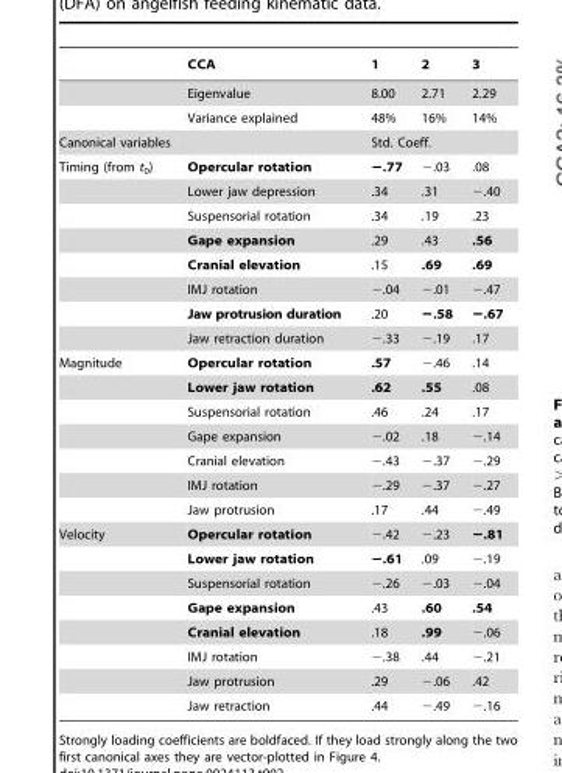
<table><thead><tr><td></td><td>CCA</td><td>1</td><td>2</td><td>3</td></tr></thead><tbody><tr><td></td><td>Eigenvalue</td><td>8.00</td><td>2.71</td><td>2.29</td></tr><tr><td></td><td>Variance explained</td><td>48%</td><td>16%</td><td>14%</td></tr><tr><td colspan="2">Canonical variables</td><td colspan="3">Std. Coeff.</td></tr><tr><td rowspan="8">Timing (from t<sub>0</sub>)</td><td>Opercular rotation</td><td>−.77</td><td>−.03</td><td>.08</td></tr><tr><td>Lower jaw depression</td><td>.34</td><td>.31</td><td>−.40</td></tr><tr><td>Suspensorial rotation</td><td>.34</td><td>.19</td><td>.23</td></tr><tr><td>Gape expansion</td><td>.29</td><td>.43</td><td>.56</td></tr><tr><td>Cranial elevation</td><td>.15</td><td>.69</td><td>.69</td></tr><tr><td>IMJ rotation</td><td>−.04</td><td>−.01</td><td>−.47</td></tr><tr><td>Jaw protrusion duration</td><td>.20</td><td>−.58</td><td>−.67</td></tr><tr><td>Jaw retraction duration</td><td>−.33</td><td>−.19</td><td>.17</td></tr><tr><td rowspan="7">Magnitude</td><td>Opercular rotation</td><td>.57</td><td>−.46</td><td>.14</td></tr><tr><td>Lower jaw rotation</td><td>.62</td><td>.55</td><td>.08</td></tr><tr><td>Suspensorial rotation</td><td>.46</td><td>.24</td><td>.17</td></tr><tr><td>Gape expansion</td><td>−.02</td><td>.18</td><td>−.14</td></tr><tr><td>Cranial elevation</td><td>−.43</td><td>−.37</td><td>−.29</td></tr><tr><td>IMJ rotation</td><td>−.29</td><td>−.37</td><td>−.27</td></tr><tr><td>Jaw protrusion</td><td>.17</td><td>.44</td><td>−.49</td></tr><tr><td rowspan="8">Velocity</td><td>Opercular rotation</td><td>−.42</td><td>−.23</td><td>−.81</td></tr><tr><td>Lower jaw rotation</td><td>−.61</td><td>.09</td><td>−.19</td></tr><tr><td>Suspensorial rotation</td><td>−.26</td><td>−.03</td><td>−.04</td></tr><tr><td>Gape expansion</td><td>.43</td><td>.60</td><td>.54</td></tr><tr><td>Cranial elevation</td><td>.18</td><td>.99</td><td>−.06</td></tr><tr><td>IMJ rotation</td><td>−.38</td><td>.44</td><td>−.21</td></tr><tr><td>Jaw protrusion</td><td>.29</td><td>−.06</td><td>.42</td></tr><tr><td>Jaw retraction</td><td>.44</td><td>−.49</td><td>−.16</td></tr></tbody></table>